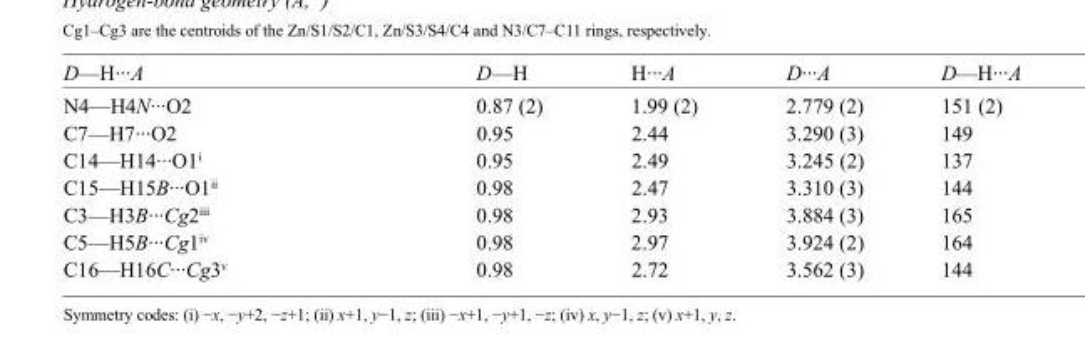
<table><tbody><tr><td>D—H···A</td><td>D—H</td><td>H···A</td><td>D···A</td><td>D—H···A</td></tr><tr><td>N4—H4N···O2</td><td>0.87 (2)</td><td>1.99 (2)</td><td>2.779 (2)</td><td>151 (2)</td></tr><tr><td>C7—H7···O2</td><td>0.95</td><td>2.44</td><td>3.290 (3)</td><td>149</td></tr><tr><td>C14—H14···O1<sup>i</sup></td><td>0.95</td><td>2.49</td><td>3.245 (2)</td><td>137</td></tr><tr><td>C15—H15B···O1<sup>ii</sup></td><td>0.98</td><td>2.47</td><td>3.310 (3)</td><td>144</td></tr><tr><td>C3—H3B···Cg2<sup>iii</sup></td><td>0.98</td><td>2.93</td><td>3.884 (3)</td><td>165</td></tr><tr><td>C5—H5B···Cg1<sup>iv</sup></td><td>0.98</td><td>2.97</td><td>3.924 (2)</td><td>164</td></tr><tr><td>C16—H16C···Cg3<sup>v</sup></td><td>0.98</td><td>2.72</td><td>3.562 (3)</td><td>144</td></tr></tbody></table>